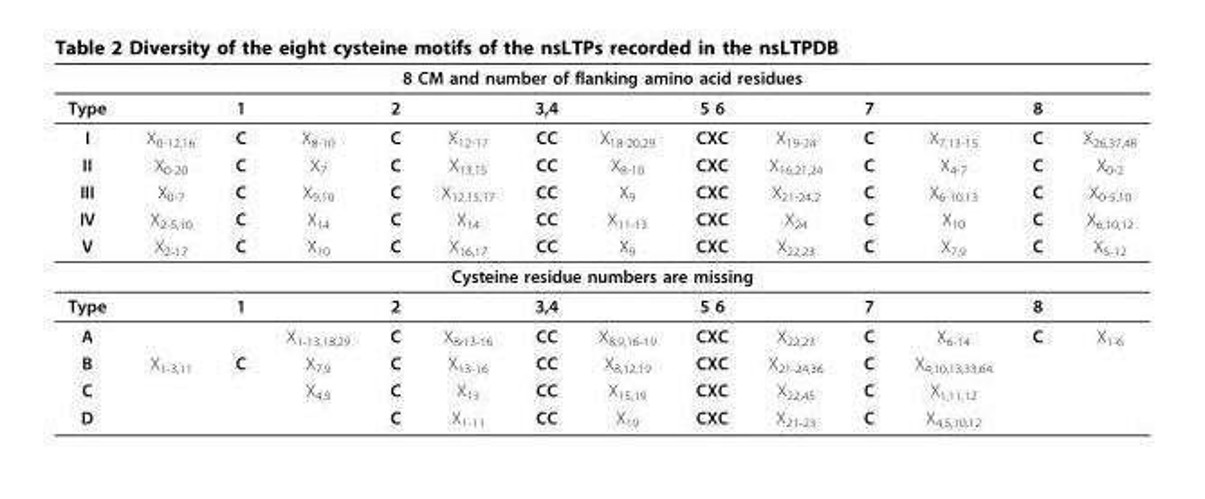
<table><thead><tr><td colspan="14">8 CM and number of flanking amino acid residues</td></tr><tr><td>Type</td><td></td><td>1</td><td></td><td>2</td><td></td><td>3,4</td><td></td><td>5 6</td><td></td><td>7</td><td></td><td>8</td><td></td></tr></thead><tbody><tr><td>I</td><td>X<sub>0-12,16</sub></td><td>C</td><td>X<sub>8-10</sub></td><td>C</td><td>X<sub>12-17</sub></td><td>CC</td><td>X<sub>18-20,29</sub></td><td>CXC</td><td>X<sub>19-24</sub></td><td>C</td><td>X<sub>7,13-15</sub></td><td>C</td><td>X<sub>26,37,48</sub></td></tr><tr><td>II</td><td>X<sub>0-20</sub></td><td>C</td><td>X<sub>7</sub></td><td>C</td><td>X<sub>13,15</sub></td><td>CC</td><td>X<sub>8-10</sub></td><td>CXC</td><td>X<sub>16,21,24</sub></td><td>C</td><td>X<sub>4-7</sub></td><td>C</td><td>X<sub>0-2</sub></td></tr><tr><td>III</td><td>X<sub>0-7</sub></td><td>C</td><td>X<sub>9,10</sub></td><td>C</td><td>X<sub>12,15,17</sub></td><td>CC</td><td>X<sub>9</sub></td><td>CXC</td><td>X<sub>21-24,2</sub></td><td>C</td><td>X<sub>6-10,13</sub></td><td>C</td><td>X<sub>0-5,10</sub></td></tr><tr><td>IV</td><td>X<sub>2-5,10</sub></td><td>C</td><td>X<sub>14</sub></td><td>C</td><td>X<sub>14</sub></td><td>CC</td><td>X<sub>11-13</sub></td><td>CXC</td><td>X<sub>24</sub></td><td>C</td><td>X<sub>10</sub></td><td>C</td><td>X<sub>6,10,12</sub></td></tr><tr><td>V</td><td>X<sub>2-17</sub></td><td>C</td><td>X<sub>10</sub></td><td>C</td><td>X<sub>16,17</sub></td><td>CC</td><td>X<sub>9</sub></td><td>CXC</td><td>X<sub>22,23</sub></td><td>C</td><td>X<sub>7,9</sub></td><td>C</td><td>X<sub>5-12</sub></td></tr><tr><td colspan="14">Cysteine residue numbers are missing</td></tr><tr><td>Type</td><td></td><td>1</td><td></td><td>2</td><td></td><td>3,4</td><td></td><td>5 6</td><td></td><td>7</td><td></td><td>8</td><td></td></tr><tr><td>A</td><td></td><td></td><td>X<sub>1-13,18,29</sub></td><td>C</td><td>X<sub>8</sub>,<sub>13-16</sub></td><td>CC</td><td>X<sub>8,9,16-19</sub></td><td>CXC</td><td>X<sub>22,23</sub></td><td>C</td><td>X<sub>6-14</sub></td><td>C</td><td>X<sub>1-6</sub></td></tr><tr><td>B</td><td>X<sub>1-3,11</sub></td><td>C</td><td>X<sub>7,9</sub></td><td>C</td><td>X<sub>13-16</sub></td><td>CC</td><td>X<sub>8,12,19</sub></td><td>CXC</td><td>X<sub>21-24,36</sub></td><td>C</td><td>X<sub>4,10,13,33,64</sub></td><td></td><td></td></tr><tr><td>C</td><td></td><td></td><td>X<sub>4,9</sub></td><td>C</td><td>X<sub>13</sub></td><td>CC</td><td>X<sub>15,19</sub></td><td>CXC</td><td>X<sub>22,45</sub></td><td>C</td><td>X<sub>1,11,12</sub></td><td></td><td></td></tr><tr><td>D</td><td></td><td></td><td></td><td>C</td><td>X<sub>1-11</sub></td><td>CC</td><td>X<sub>19</sub></td><td>CXC</td><td>X<sub>21-23</sub></td><td>C</td><td>X<sub>4,5,10,12</sub></td><td></td><td></td></tr></tbody></table>